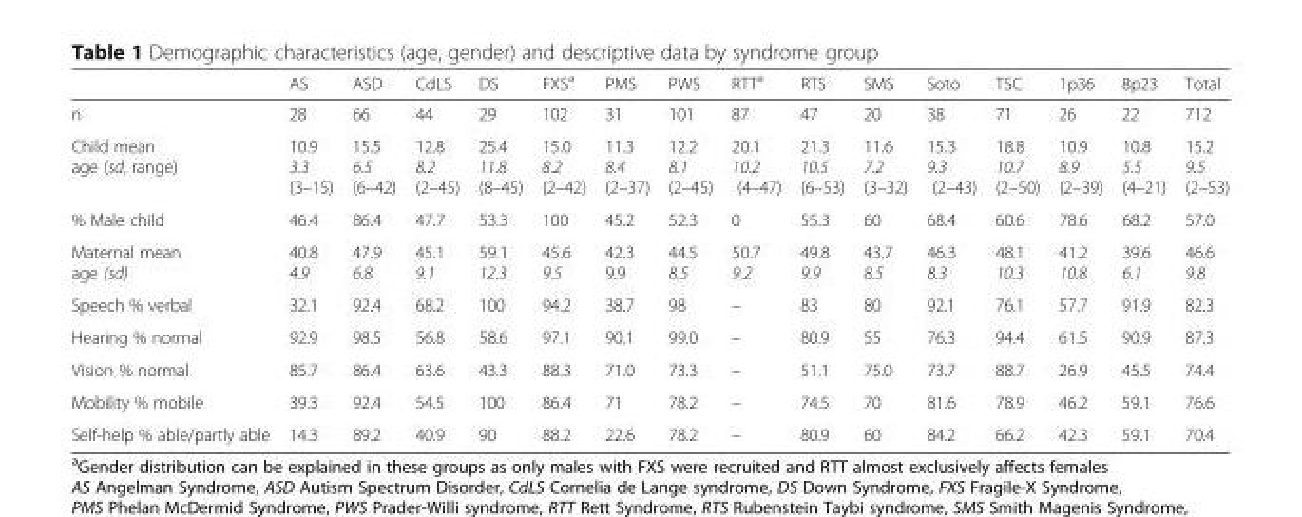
<table><thead><tr><td></td><td>AS</td><td>ASD</td><td>CdLS</td><td>DS</td><td>FXS<sup>a</sup></td><td>PMS</td><td>PWS</td><td>RTT<sup>a</sup></td><td>RTS</td><td>SMS</td><td>Soto</td><td>TSC</td><td>1p36</td><td>8p23</td><td>Total</td></tr></thead><tbody><tr><td>n</td><td>28</td><td>66</td><td>44</td><td>29</td><td>102</td><td>31</td><td>101</td><td>87</td><td>47</td><td>20</td><td>38</td><td>71</td><td>26</td><td>22</td><td>712</td></tr><tr><td>Child mean age (sd, range)</td><td>10.9 3.3 (3–15)</td><td>15.5 6.5 (6–42)</td><td>12.8 8.2 (2–45)</td><td>25.4 11.8 (8–45)</td><td>15.0 8.2 (2–42)</td><td>11.3 8.4 (2–37)</td><td>12.2 8.1 (2–45)</td><td>20.1 10.2 (4–47)</td><td>21.3 10.5 (6–53)</td><td>11.6 7.2 (3–32)</td><td>15.3 9.3 (2–43)</td><td>18.8 10.7 (2–50)</td><td>10.9 8.9 (2–39)</td><td>10.8 5.5 (4–21)</td><td>15.2 9.5 (2–53)</td></tr><tr><td>% Male child</td><td>46.4</td><td>86.4</td><td>47.7</td><td>53.3</td><td>100</td><td>45.2</td><td>52.3</td><td>0</td><td>55.3</td><td>60</td><td>68.4</td><td>60.6</td><td>78.6</td><td>68.2</td><td>57.0</td></tr><tr><td>Maternal mean age (sd)</td><td>40.8 4.9</td><td>47.9 6.8</td><td>45.1 9.1</td><td>59.1 12.3</td><td>45.6 9.5</td><td>42.3 9.9</td><td>44.5 8.5</td><td>50.7 9.2</td><td>49.8 9.9</td><td>43.7 8.5</td><td>46.3 8.3</td><td>48.1 10.3</td><td>41.2 10.8</td><td>39.6 6.1</td><td>46.6 9.8</td></tr><tr><td>Speech % verbal</td><td>32.1</td><td>92.4</td><td>68.2</td><td>100</td><td>94.2</td><td>38.7</td><td>98</td><td>–</td><td>83</td><td>80</td><td>92.1</td><td>76.1</td><td>57.7</td><td>91.9</td><td>82.3</td></tr><tr><td>Hearing % normal</td><td>92.9</td><td>98.5</td><td>56.8</td><td>58.6</td><td>97.1</td><td>90.1</td><td>99.0</td><td>–</td><td>80.9</td><td>55</td><td>76.3</td><td>94.4</td><td>61.5</td><td>90.9</td><td>87.3</td></tr><tr><td>Vision % normal</td><td>85.7</td><td>86.4</td><td>63.6</td><td>43.3</td><td>88.3</td><td>71.0</td><td>73.3</td><td>–</td><td>51.1</td><td>75.0</td><td>73.7</td><td>88.7</td><td>26.9</td><td>45.5</td><td>74.4</td></tr><tr><td>Mobility % mobile</td><td>39.3</td><td>92.4</td><td>54.5</td><td>100</td><td>86.4</td><td>71</td><td>78.2</td><td>–</td><td>74.5</td><td>70</td><td>81.6</td><td>78.9</td><td>46.2</td><td>59.1</td><td>76.6</td></tr><tr><td>Self-help % able/partly able</td><td>14.3</td><td>89.2</td><td>40.9</td><td>90</td><td>88.2</td><td>22.6</td><td>78.2</td><td>–</td><td>80.9</td><td>60</td><td>84.2</td><td>66.2</td><td>42.3</td><td>59.1</td><td>70.4</td></tr></tbody></table>